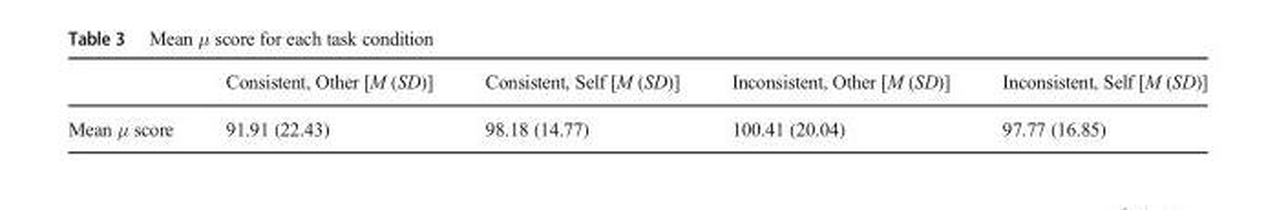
<table><thead><tr><td></td><td>Consistent, Other [M (SD)]</td><td>Consistent, Self [M (SD)]</td><td>Inconsistent, Other [M (SD)]</td><td>Inconsistent, Self [M (SD)]</td></tr></thead><tbody><tr><td>Mean μ score</td><td>91.91 (22.43)</td><td>98.18 (14.77)</td><td>100.41 (20.04)</td><td>97.77 (16.85)</td></tr></tbody></table>